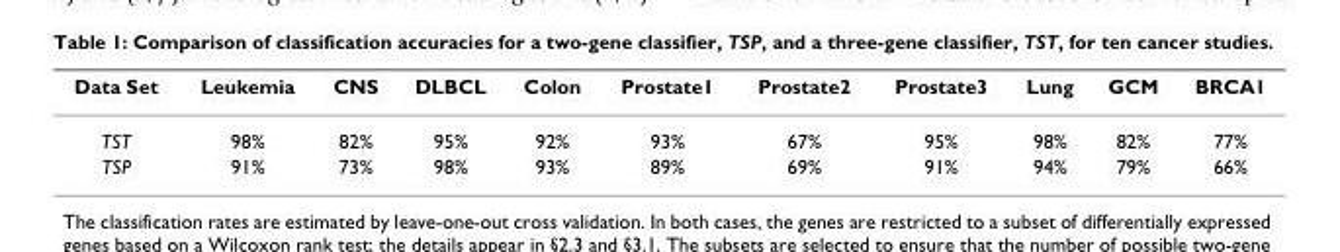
<table><thead><tr><td>Data Set</td><td>Leukemia</td><td>CNS</td><td>DLBCL</td><td>Colon</td><td>Prostate1</td><td>Prostate2</td><td>Prostate3</td><td>Lung</td><td>GCM</td><td>BRCA1</td></tr></thead><tbody><tr><td>TST</td><td>98%</td><td>82%</td><td>95%</td><td>92%</td><td>93%</td><td>67%</td><td>95%</td><td>98%</td><td>82%</td><td>77%</td></tr><tr><td>TSP</td><td>91%</td><td>73%</td><td>98%</td><td>93%</td><td>89%</td><td>69%</td><td>91%</td><td>94%</td><td>79%</td><td>66%</td></tr></tbody></table>